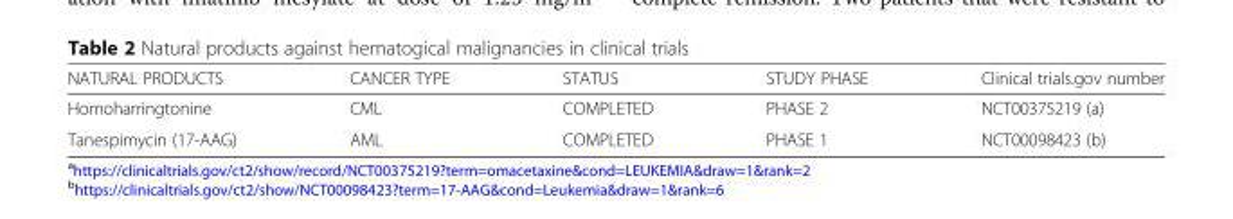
<table><thead><tr><td>NATURAL PRODUCTS</td><td>CANCER TYPE</td><td>STATUS</td><td>STUDY PHASE</td><td>Clinical trials.gov number</td></tr></thead><tbody><tr><td>Homoharringtonine</td><td>CML</td><td>COMPLETED</td><td>PHASE 2</td><td>NCT00375219 (a)</td></tr><tr><td>Tanespimycin (17-AAG)</td><td>AML</td><td>COMPLETED</td><td>PHASE 1</td><td>NCT00098423 (b)</td></tr></tbody></table>